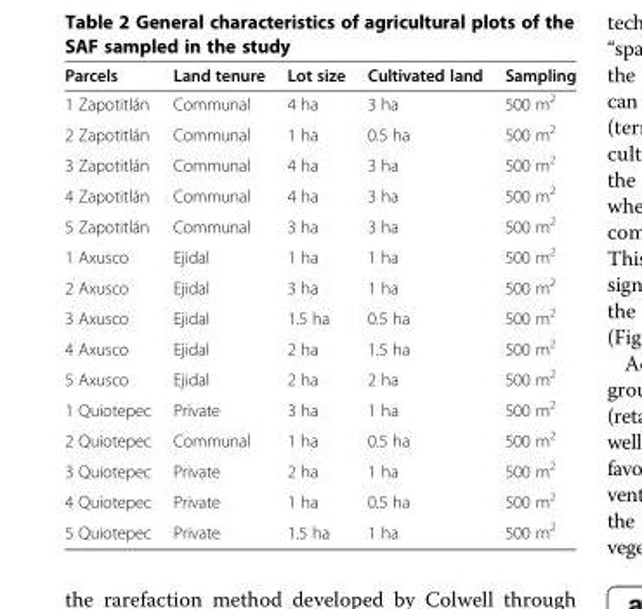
<table><thead><tr><td>Parcels</td><td>Land tenure</td><td>Lot size</td><td>Cultivated land</td><td>Sampling</td></tr></thead><tbody><tr><td>1 Zapotitlán</td><td>Communal</td><td>4 ha</td><td>3 ha</td><td>500 m<sup>2</sup></td></tr><tr><td>2 Zapotitlán</td><td>Communal</td><td>1 ha</td><td>0.5 ha</td><td>500 m<sup>2</sup></td></tr><tr><td>3 Zapotitlán</td><td>Communal</td><td>4 ha</td><td>3 ha</td><td>500 m<sup>2</sup></td></tr><tr><td>4 Zapotitlán</td><td>Communal</td><td>4 ha</td><td>3 ha</td><td>500 m<sup>2</sup></td></tr><tr><td>5 Zapotitlán</td><td>Communal</td><td>3 ha</td><td>3 ha</td><td>500 m<sup>2</sup></td></tr><tr><td>1 Axusco</td><td>Ejidal</td><td>1 ha</td><td>1 ha</td><td>500 m<sup>2</sup></td></tr><tr><td>2 Axusco</td><td>Ejidal</td><td>3 ha</td><td>1 ha</td><td>500 m<sup>2</sup></td></tr><tr><td>3 Axusco</td><td>Ejidal</td><td>1.5 ha</td><td>0.5 ha</td><td>500 m<sup>2</sup></td></tr><tr><td>4 Axusco</td><td>Ejidal</td><td>2 ha</td><td>1.5 ha</td><td>500 m<sup>2</sup></td></tr><tr><td>5 Axusco</td><td>Ejidal</td><td>2 ha</td><td>2 ha</td><td>500 m<sup>2</sup></td></tr><tr><td>1 Quiotepec</td><td>Private</td><td>3 ha</td><td>1 ha</td><td>500 m<sup>2</sup></td></tr><tr><td>2 Quiotepec</td><td>Communal</td><td>1 ha</td><td>0.5 ha</td><td>500 m<sup>2</sup></td></tr><tr><td>3 Quiotepec</td><td>Private</td><td>2 ha</td><td>1 ha</td><td>500 m<sup>2</sup></td></tr><tr><td>4 Quiotepec</td><td>Private</td><td>1 ha</td><td>0.5 ha</td><td>500 m<sup>2</sup></td></tr><tr><td>5 Quiotepec</td><td>Private</td><td>1.5 ha</td><td>1 ha</td><td>500 m<sup>2</sup></td></tr></tbody></table>